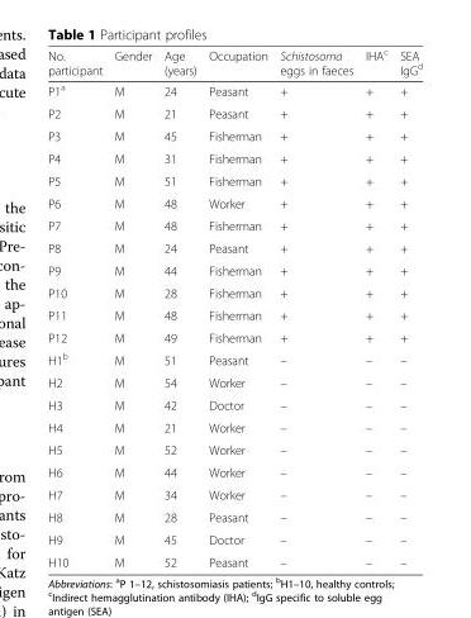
<table><thead><tr><td>No. participant</td><td>Gender</td><td>Age (years)</td><td>Occupation</td><td>Schistosoma eggs in faeces</td><td>IHA<sup>c</sup></td><td>SEA IgG<sup>d</sup></td></tr></thead><tbody><tr><td>P1<sup>a</sup></td><td>M</td><td>24</td><td>Peasant</td><td>+</td><td>+</td><td>+</td></tr><tr><td>P2</td><td>M</td><td>21</td><td>Peasant</td><td>+</td><td>+</td><td>+</td></tr><tr><td>P3</td><td>M</td><td>45</td><td>Fisherman</td><td>+</td><td>+</td><td>+</td></tr><tr><td>P4</td><td>M</td><td>31</td><td>Fisherman</td><td>+</td><td>+</td><td>+</td></tr><tr><td>P5</td><td>M</td><td>51</td><td>Fisherman</td><td>+</td><td>+</td><td>+</td></tr><tr><td>P6</td><td>M</td><td>48</td><td>Worker</td><td>+</td><td>+</td><td>+</td></tr><tr><td>P7</td><td>M</td><td>48</td><td>Fisherman</td><td>+</td><td>+</td><td>+</td></tr><tr><td>P8</td><td>M</td><td>24</td><td>Peasant</td><td>+</td><td>+</td><td>+</td></tr><tr><td>P9</td><td>M</td><td>44</td><td>Fisherman</td><td>+</td><td>+</td><td>+</td></tr><tr><td>P10</td><td>M</td><td>28</td><td>Fisherman</td><td>+</td><td>+</td><td>+</td></tr><tr><td>P11</td><td>M</td><td>48</td><td>Fisherman</td><td>+</td><td>+</td><td>+</td></tr><tr><td>P12</td><td>M</td><td>49</td><td>Fisherman</td><td>+</td><td>+</td><td>+</td></tr><tr><td>H1<sup>b</sup></td><td>M</td><td>51</td><td>Peasant</td><td>–</td><td>–</td><td>–</td></tr><tr><td>H2</td><td>M</td><td>54</td><td>Worker</td><td>–</td><td>–</td><td>–</td></tr><tr><td>H3</td><td>M</td><td>42</td><td>Doctor</td><td>–</td><td>–</td><td>–</td></tr><tr><td>H4</td><td>M</td><td>21</td><td>Worker</td><td>–</td><td>–</td><td>–</td></tr><tr><td>H5</td><td>M</td><td>52</td><td>Worker</td><td>–</td><td>–</td><td>–</td></tr><tr><td>H6</td><td>M</td><td>44</td><td>Worker</td><td>–</td><td>–</td><td>–</td></tr><tr><td>H7</td><td>M</td><td>34</td><td>Worker</td><td>–</td><td>–</td><td>–</td></tr><tr><td>H8</td><td>M</td><td>28</td><td>Peasant</td><td>–</td><td>–</td><td>–</td></tr><tr><td>H9</td><td>M</td><td>45</td><td>Doctor</td><td>–</td><td>–</td><td>–</td></tr><tr><td>H10</td><td>M</td><td>52</td><td>Peasant</td><td>–</td><td>–</td><td>–</td></tr></tbody></table>